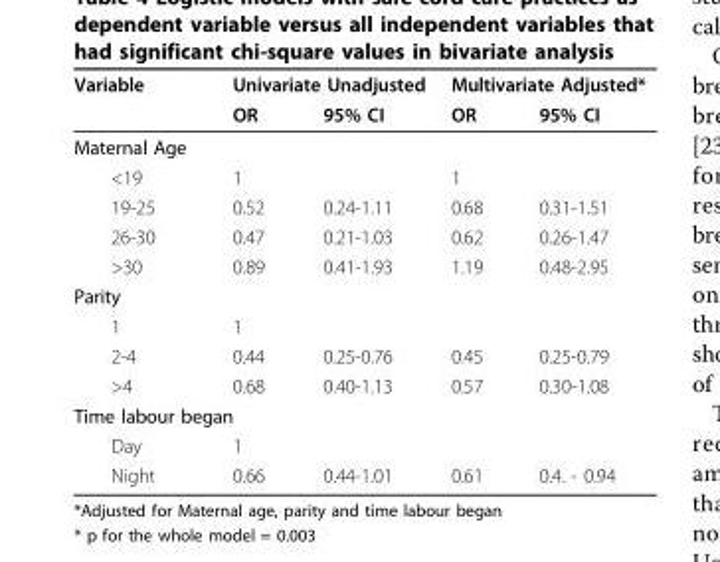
<table><thead><tr><td rowspan="2">Variable</td><td colspan="2">Univariate Unadjusted</td><td colspan="2">Multivariate Adjusted*</td></tr><tr><td>OR</td><td>95% CI</td><td>OR</td><td>95% CI</td></tr></thead><tbody><tr><td colspan="5">Maternal Age</td></tr><tr><td>&lt;19</td><td>1</td><td></td><td>1</td><td></td></tr><tr><td>19-25</td><td>0.52</td><td>0.24-1.11</td><td>0.68</td><td>0.31-1.51</td></tr><tr><td>26-30</td><td>0.47</td><td>0.21-1.03</td><td>0.62</td><td>0.26-1.47</td></tr><tr><td>&gt;30</td><td>0.89</td><td>0.41-1.93</td><td>1.19</td><td>0.48-2.95</td></tr><tr><td colspan="5">Parity</td></tr><tr><td>1</td><td>1</td><td></td><td></td><td></td></tr><tr><td>2-4</td><td>0.44</td><td>0.25-0.76</td><td>0.45</td><td>0.25-0.79</td></tr><tr><td>&gt;4</td><td>0.68</td><td>0.40-1.13</td><td>0.57</td><td>0.30-1.08</td></tr><tr><td colspan="5">Time labour began</td></tr><tr><td>Day</td><td>1</td><td></td><td></td><td></td></tr><tr><td>Night</td><td>0.66</td><td>0.44-1.01</td><td>0.61</td><td>0.4. - 0.94</td></tr></tbody></table>